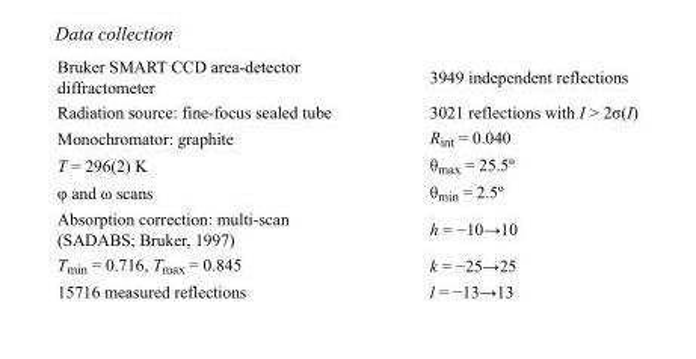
<table><tbody><tr><td>Bruker SMART CCD area-detector diffractometer</td><td>3949 independent reflections</td></tr><tr><td>Radiation source: fine-focus sealed tube</td><td>3021 reflections with I &gt; 2σ(I)</td></tr><tr><td>Monochromator: graphite</td><td>R<sub>int</sub> = 0.040</td></tr><tr><td>T = 296(2) K</td><td>θ<sub>max</sub> = 25.5º</td></tr><tr><td>φ and ω scans</td><td>θ<sub>min</sub> = 2.5º</td></tr><tr><td>Absorption correction: multi-scan (SADABS; Bruker, 1997)</td><td>h = −10→10</td></tr><tr><td>T<sub>min</sub> = 0.716, T<sub>max</sub> = 0.845</td><td>k = −25→25</td></tr><tr><td>15716 measured reflections</td><td>l = −13→13</td></tr></tbody></table>